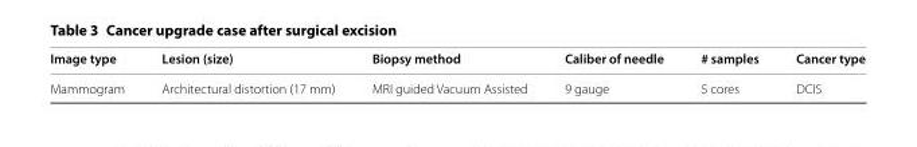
<table><thead><tr><td>Image type</td><td>Lesion (size)</td><td>Biopsy method</td><td>Caliber of needle</td><td># samples</td><td>Cancer type</td></tr></thead><tbody><tr><td>Mammogram</td><td>Architectural distortion (17 mm)</td><td>MRI guided Vacuum Assisted</td><td>9 gauge</td><td>5 cores</td><td>DCIS</td></tr></tbody></table>